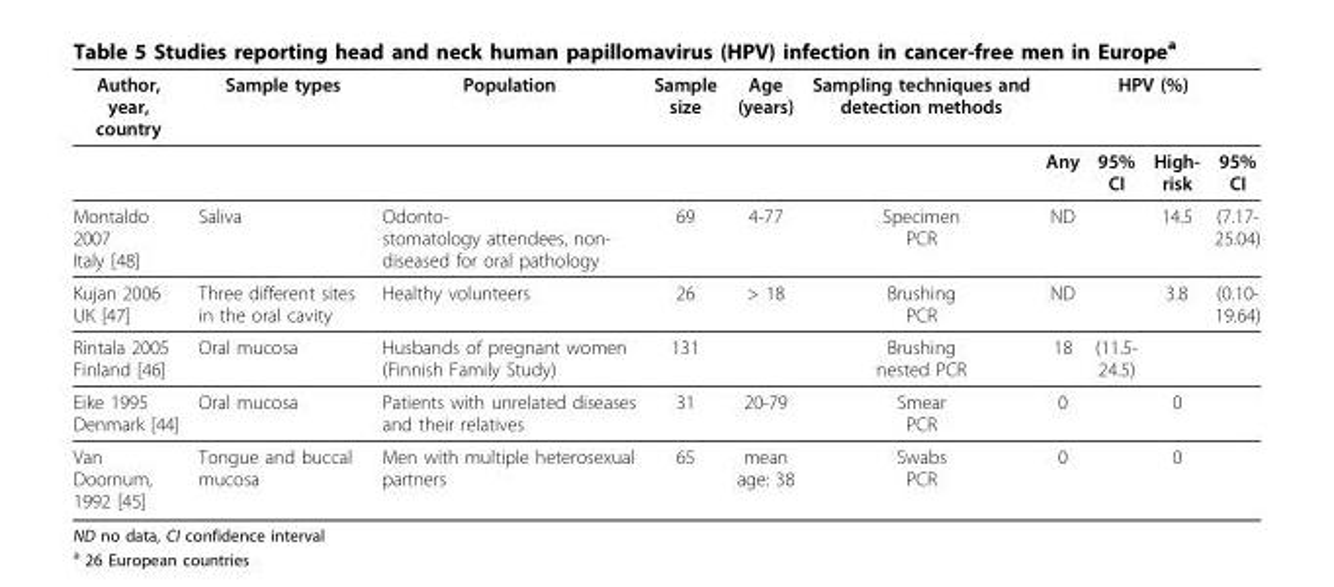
<table><thead><tr><td rowspan="2">Author, year, country</td><td rowspan="2">Sample types</td><td rowspan="2">Population</td><td rowspan="2">Sample size</td><td rowspan="2">Age (years)</td><td rowspan="2">Sampling techniques and detection methods</td><td colspan="4">HPV (%)</td></tr><tr><td>Any</td><td>95% CI</td><td>High- risk</td><td>95% CI</td></tr></thead><tbody><tr><td>Montaldo 2007 Italy [48]</td><td>Saliva</td><td>Odonto- stomatology attendees, non- diseased for oral pathology</td><td>69</td><td>4-77</td><td>Specimen PCR</td><td>ND</td><td></td><td>14.5</td><td>(7.17- 25.04)</td></tr><tr><td>Kujan 2006 UK [47]</td><td>Three different sites in the oral cavity</td><td>Healthy volunteers</td><td>26</td><td>&gt; 18</td><td>Brushing PCR</td><td>ND</td><td></td><td>3.8</td><td>(0.10- 19.64)</td></tr><tr><td>Rintala 2005 Finland [46]</td><td>Oral mucosa</td><td>Husbands of pregnant women (Finnish Family Study)</td><td>131</td><td></td><td>Brushing nested PCR</td><td>18</td><td>(11.5- 24.5)</td><td></td><td></td></tr><tr><td>Eike 1995 Denmark [44]</td><td>Oral mucosa</td><td>Patients with unrelated diseases and their relatives</td><td>31</td><td>20-79</td><td>Smear PCR</td><td>0</td><td></td><td>0</td><td></td></tr><tr><td>Van Doornum, 1992 [45]</td><td>Tongue and buccal mucosa</td><td>Men with multiple heterosexual partners</td><td>65</td><td>mean age: 38</td><td>Swabs PCR</td><td>0</td><td></td><td>0</td><td></td></tr></tbody></table>